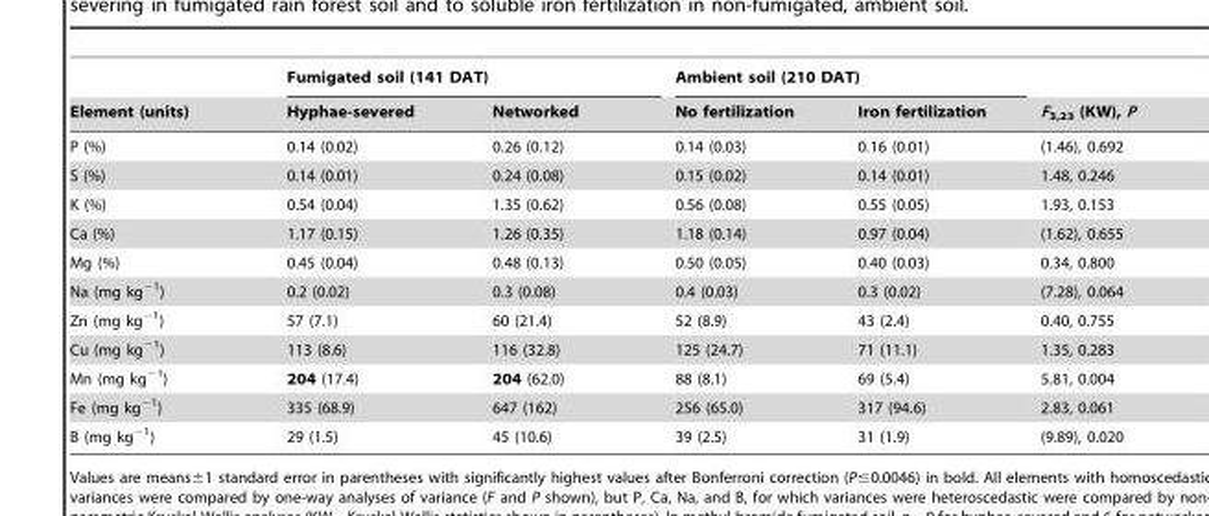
<table><thead><tr><td rowspan="2">Element (units)</td><td colspan="2">Fumigated soil (141 DAT)</td><td colspan="2">Ambient soil (210 DAT)</td><td rowspan="2">F<sub>3,23</sub> (KW), P</td></tr><tr><td>Hyphae-severed</td><td>Networked</td><td>No fertilization</td><td>Iron fertilization</td></tr></thead><tbody><tr><td>P (%)</td><td>0.14 (0.02)</td><td>0.26 (0.12)</td><td>0.14 (0.03)</td><td>0.16 (0.01)</td><td>(1.46), 0.692</td></tr><tr><td>S (%)</td><td>0.14 (0.01)</td><td>0.24 (0.08)</td><td>0.15 (0.02)</td><td>0.14 (0.01)</td><td>1.48, 0.246</td></tr><tr><td>K (%)</td><td>0.54 (0.04)</td><td>1.35 (0.62)</td><td>0.56 (0.08)</td><td>0.55 (0.05)</td><td>1.93, 0.153</td></tr><tr><td>Ca (%)</td><td>1.17 (0.15)</td><td>1.26 (0.35)</td><td>1.18 (0.14)</td><td>0.97 (0.04)</td><td>(1.62), 0.655</td></tr><tr><td>Mg (%)</td><td>0.45 (0.04)</td><td>0.48 (0.13)</td><td>0.50 (0.05)</td><td>0.40 (0.03)</td><td>0.34, 0.800</td></tr><tr><td>Na (mg kg<sup>−1</sup>)</td><td>0.2 (0.02)</td><td>0.3 (0.08)</td><td>0.4 (0.03)</td><td>0.3 (0.02)</td><td>(7.28), 0.064</td></tr><tr><td>Zn (mg kg<sup>−1</sup>)</td><td>57 (7.1)</td><td>60 (21.4)</td><td>52 (8.9)</td><td>43 (2.4)</td><td>0.40, 0.755</td></tr><tr><td>Cu (mg kg<sup>−1</sup>)</td><td>113 (8.6)</td><td>116 (32.8)</td><td>125 (24.7)</td><td>71 (11.1)</td><td>1.35, 0.283</td></tr><tr><td>Mn (mg kg<sup>−1</sup>)</td><td>204 (17.4)</td><td>204 (62.0)</td><td>88 (8.1)</td><td>69 (5.4)</td><td>5.81, 0.004</td></tr><tr><td>Fe (mg kg<sup>−1</sup>)</td><td>335 (68.9)</td><td>647 (162)</td><td>256 (65.0)</td><td>317 (94.6)</td><td>2.83, 0.061</td></tr><tr><td>B (mg kg<sup>−1</sup>)</td><td>29 (1.5)</td><td>45 (10.6)</td><td>39 (2.5)</td><td>31 (1.9)</td><td>(9.89), 0.020</td></tr></tbody></table>